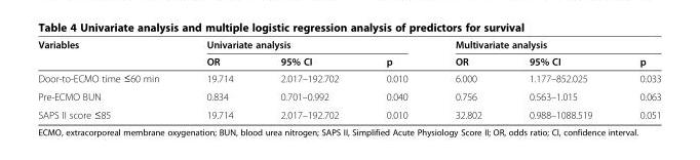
<table><thead><tr><td rowspan="2">Variables</td><td colspan="3">Univariate analysis</td><td colspan="3">Multivariate analysis</td></tr><tr><td>OR</td><td>95% CI</td><td>p</td><td>OR</td><td>95% CI</td><td>p</td></tr></thead><tbody><tr><td>Door-to-ECMO time ≤60 min</td><td>19.714</td><td>2.017–192.702</td><td>0.010</td><td>6.000</td><td>1.177–852.025</td><td>0.033</td></tr><tr><td>Pre-ECMO BUN</td><td>0.834</td><td>0.701–0.992</td><td>0.040</td><td>0.756</td><td>0.563–1.015</td><td>0.063</td></tr><tr><td>SAPS II score ≤85</td><td>19.714</td><td>2.017–192.702</td><td>0.010</td><td>32.802</td><td>0.988–1088.519</td><td>0.051</td></tr></tbody></table>